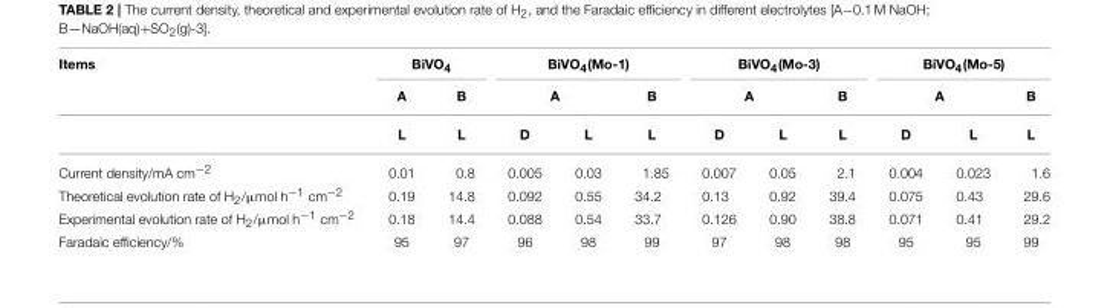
<table><thead><tr><td rowspan="3">Items</td><td colspan="2">BiVO<sub>4</sub></td><td colspan="3">BiVO<sub>4</sub>(Mo-1)</td><td colspan="3">BiVO<sub>4</sub>(Mo-3)</td><td colspan="3">BiVO<sub>4</sub>(Mo-5)</td></tr><tr><td rowspan="2">A L</td><td rowspan="2">B L</td><td colspan="2">A</td><td rowspan="2">B L</td><td colspan="2">A</td><td rowspan="2">B L</td><td colspan="2">A</td><td rowspan="2">B L</td></tr><tr><td>D</td><td>L</td><td>D</td><td>L</td><td>D</td><td>L</td></tr></thead><tbody><tr><td>Current density/mA cm<sup>−2</sup></td><td>0.01</td><td>0.8</td><td>0.005</td><td>0.03</td><td>1.85</td><td>0.007</td><td>0.05</td><td>2.1</td><td>0.004</td><td>0.023</td><td>1.6</td></tr><tr><td>Theoretical evolution rate of H<sub>2</sub>/µmol h<sup>−1</sup> cm<sup>−2</sup></td><td>0.19</td><td>14.8</td><td>0.092</td><td>0.55</td><td>34.2</td><td>0.13</td><td>0.92</td><td>39.4</td><td>0.075</td><td>0.43</td><td>29.6</td></tr><tr><td>Experimental evolution rate of H<sub>2</sub>/µmol h<sup>−1</sup> cm<sup>−2</sup></td><td>0.18</td><td>14.4</td><td>0.088</td><td>0.54</td><td>33.7</td><td>0.126</td><td>0.90</td><td>38.8</td><td>0.071</td><td>0.41</td><td>29.2</td></tr><tr><td>Faradaic efficiency/%</td><td>95</td><td>97</td><td>96</td><td>98</td><td>99</td><td>97</td><td>98</td><td>98</td><td>95</td><td>95</td><td>99</td></tr></tbody></table>